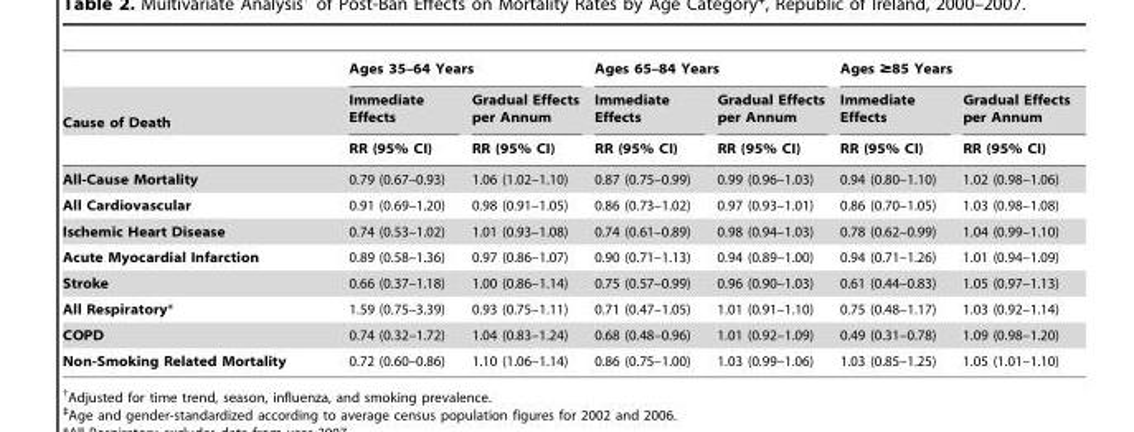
<table><thead><tr><td rowspan="3">Cause of Death</td><td colspan="2">Ages 35–64 Years</td><td colspan="2">Ages 65–84 Years</td><td colspan="2">Ages ≥85 Years</td></tr><tr><td rowspan="2">Immediate Effects RR (95% CI)</td><td rowspan="2">Gradual Effects per Annum RR (95% CI)</td><td rowspan="2">Immediate Effects RR (95% CI)</td><td rowspan="2">Gradual Effects per Annum RR (95% CI)</td><td rowspan="2">Immediate Effects RR (95% CI)</td><td rowspan="2">Gradual Effects per Annum RR (95% CI)</td></tr><tr></tr></thead><tbody><tr><td>All-Cause Mortality</td><td>0.79 (0.67–0.93)</td><td>1.06 (1.02–1.10)</td><td>0.87 (0.75–0.99)</td><td>0.99 (0.96–1.03)</td><td>0.94 (0.80–1.10)</td><td>1.02 (0.98–1.06)</td></tr><tr><td>All Cardiovascular</td><td>0.91 (0.69–1.20)</td><td>0.98 (0.91–1.05)</td><td>0.86 (0.73–1.02)</td><td>0.97 (0.93–1.01)</td><td>0.86 (0.70–1.05)</td><td>1.03 (0.98–1.08)</td></tr><tr><td>Ischemic Heart Disease</td><td>0.74 (0.53–1.02)</td><td>1.01 (0.93–1.08)</td><td>0.74 (0.61–0.89)</td><td>0.98 (0.94–1.03)</td><td>0.78 (0.62–0.99)</td><td>1.04 (0.99–1.10)</td></tr><tr><td>Acute Myocardial Infarction</td><td>0.89 (0.58–1.36)</td><td>0.97 (0.86–1.07)</td><td>0.90 (0.71–1.13)</td><td>0.94 (0.89–1.00)</td><td>0.94 (0.71–1.26)</td><td>1.01 (0.94–1.09)</td></tr><tr><td>Stroke</td><td>0.66 (0.37–1.18)</td><td>1.00 (0.86–1.14)</td><td>0.75 (0.57–0.99)</td><td>0.96 (0.90–1.03)</td><td>0.61 (0.44–0.83)</td><td>1.05 (0.97–1.13)</td></tr><tr><td>All Respiratory*</td><td>1.59 (0.75–3.39)</td><td>0.93 (0.75–1.11)</td><td>0.71 (0.47–1.05)</td><td>1.01 (0.91–1.10)</td><td>0.75 (0.48–1.17)</td><td>1.03 (0.92–1.14)</td></tr><tr><td>COPD</td><td>0.74 (0.32–1.72)</td><td>1.04 (0.83–1.24)</td><td>0.68 (0.48–0.96)</td><td>1.01 (0.92–1.09)</td><td>0.49 (0.31–0.78)</td><td>1.09 (0.98–1.20)</td></tr><tr><td>Non-Smoking Related Mortality</td><td>0.72 (0.60–0.86)</td><td>1.10 (1.06–1.14)</td><td>0.86 (0.75–1.00)</td><td>1.03 (0.99–1.06)</td><td>1.03 (0.85–1.25)</td><td>1.05 (1.01–1.10)</td></tr></tbody></table>